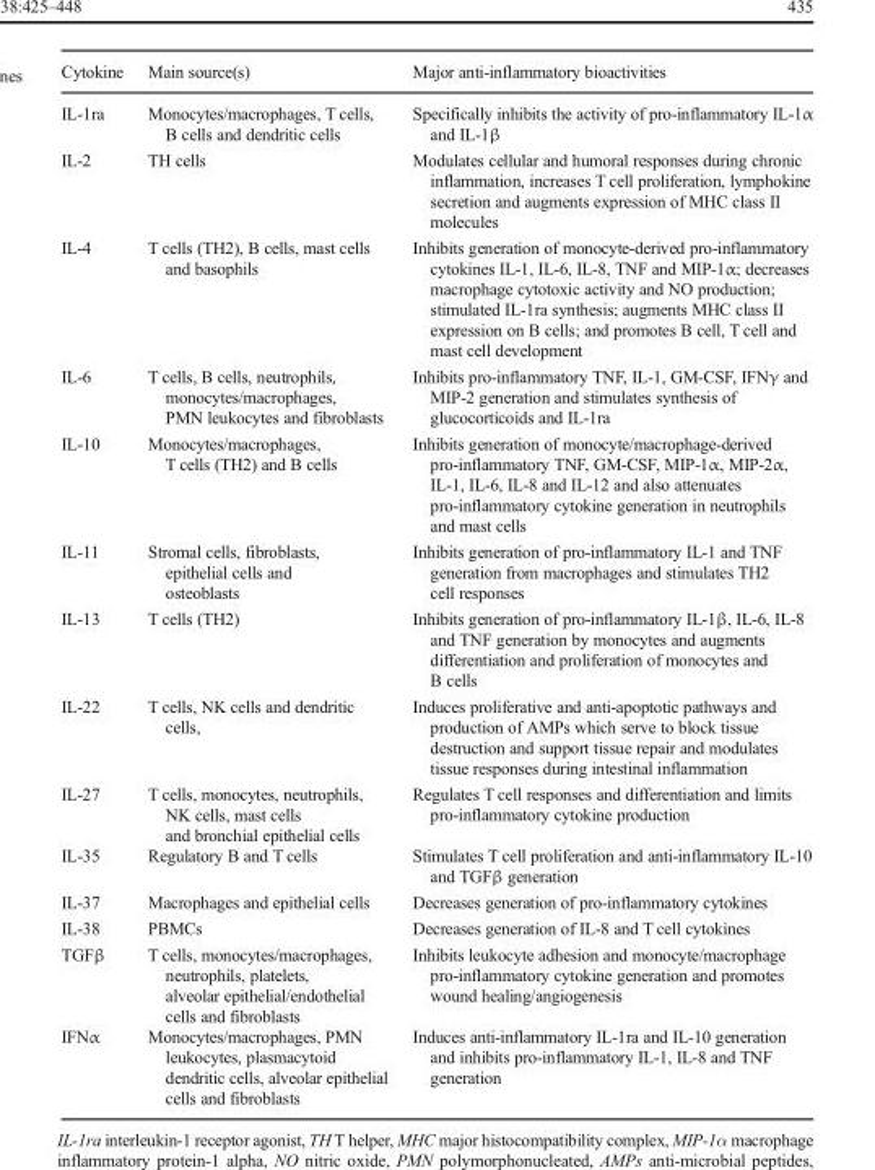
<table><thead><tr><td>Cytokine</td><td>Main source(s)</td><td>Major anti-inflammatory bioactivities</td></tr></thead><tbody><tr><td>IL-1ra</td><td>Monocytes/macrophages, T cells, B cells and dendritic cells</td><td>Specifically inhibits the activity of pro-inflammatory IL-1α and IL-1β</td></tr><tr><td>IL-2</td><td>TH cells</td><td>Modulates cellular and humoral responses during chronic inflammation, increases T cell proliferation, lymphokine secretion and augments expression of MHC class II molecules</td></tr><tr><td>IL-4</td><td>T cells (TH2), B cells, mast cells and basophils</td><td>Inhibits generation of monocyte-derived pro-inflammatory cytokines IL-1, IL-6, IL-8, TNF and MIP-1α; decreases macrophage cytotoxic activity and NO production; stimulated IL-1ra synthesis; augments MHC class II expression on B cells; and promotes B cell, T cell and mast cell development</td></tr><tr><td>IL-6</td><td>T cells, B cells, neutrophils, monocytes/macrophages, PMN leukocytes and fibroblasts</td><td>Inhibits pro-inflammatory TNF, IL-1, GM-CSF, IFNγ and MIP-2 generation and stimulates synthesis of glucocorticoids and IL-1ra</td></tr><tr><td>IL-10</td><td>Monocytes/macrophages, T cells (TH2) and B cells</td><td>Inhibits generation of monocyte/macrophage-derived pro-inflammatory TNF, GM-CSF, MIP-1α, MIP-2α, IL-1, IL-6, IL-8 and IL-12 and also attenuates pro-inflammatory cytokine generation in neutrophils and mast cells</td></tr><tr><td>IL-11</td><td>Stromal cells, fibroblasts, epithelial cells and osteoblasts</td><td>Inhibits generation of pro-inflammatory IL-1 and TNF generation from macrophages and stimulates TH2 cell responses</td></tr><tr><td>IL-13</td><td>T cells (TH2)</td><td>Inhibits generation of pro-inflammatory IL-1β, IL-6, IL-8 and TNF generation by monocytes and augments differentiation and proliferation of monocytes and B cells</td></tr><tr><td>IL-22</td><td>T cells, NK cells and dendritic cells,</td><td>Induces proliferative and anti-apoptotic pathways and production of AMPs which serve to block tissue destruction and support tissue repair and modulates tissue responses during intestinal inflammation</td></tr><tr><td>IL-27</td><td>T cells, monocytes, neutrophils, NK cells, mast cells and bronchial epithelial cells</td><td>Regulates T cell responses and differentiation and limits pro-inflammatory cytokine production</td></tr><tr><td>IL-35</td><td>Regulatory B and T cells</td><td>Stimulates T cell proliferation and anti-inflammatory IL-10 and TGFβ generation</td></tr><tr><td>IL-37</td><td>Macrophages and epithelial cells</td><td>Decreases generation of pro-inflammatory cytokines</td></tr><tr><td>IL-38</td><td>PBMCs</td><td>Decreases generation of IL-8 and T cell cytokines</td></tr><tr><td>TGFβ</td><td>T cells, monocytes/macrophages, neutrophils, platelets, alveolar epithelial/endothelial cells and fibroblasts</td><td>Inhibits leukocyte adhesion and monocyte/macrophage pro-inflammatory cytokine generation and promotes wound healing/angiogenesis</td></tr><tr><td>IFNα</td><td>Monocytes/macrophages, PMN leukocytes, plasmacytoid dendritic cells, alveolar epithelial cells and fibroblasts</td><td>Induces anti-inflammatory IL-1ra and IL-10 generation and inhibits pro-inflammatory IL-1, IL-8 and TNF generation</td></tr></tbody></table>